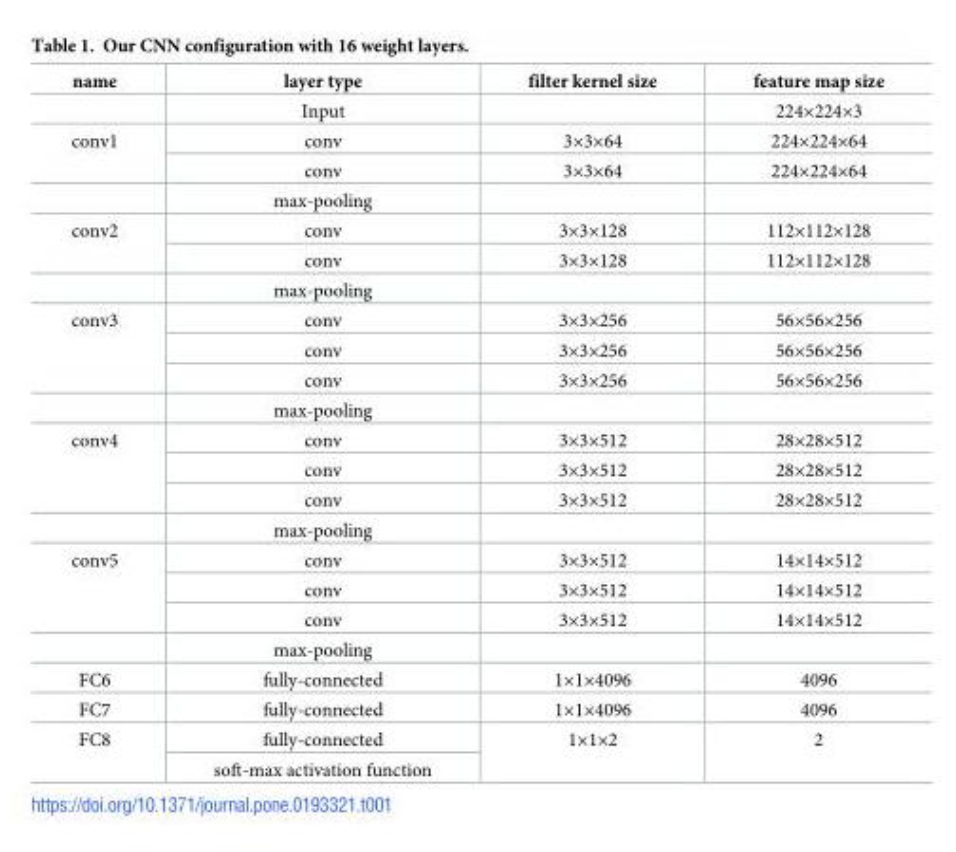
<table><thead><tr><td>name</td><td>layer type</td><td>filter kernel size</td><td>feature map size</td></tr></thead><tbody><tr><td></td><td>Input</td><td></td><td>224×224×3</td></tr><tr><td rowspan="3">conv1</td><td>conv</td><td>3×3×64</td><td>224×224×64</td></tr><tr><td>conv</td><td>3×3×64</td><td>224×224×64</td></tr><tr><td>max-pooling</td><td></td><td></td></tr><tr><td rowspan="3">conv2</td><td>conv</td><td>3×3×128</td><td>112×112×128</td></tr><tr><td>conv</td><td>3×3×128</td><td>112×112×128</td></tr><tr><td>max-pooling</td><td></td><td></td></tr><tr><td rowspan="4">conv3</td><td>conv</td><td>3×3×256</td><td>56×56×256</td></tr><tr><td>conv</td><td>3×3×256</td><td>56×56×256</td></tr><tr><td>conv</td><td>3×3×256</td><td>56×56×256</td></tr><tr><td>max-pooling</td><td></td><td></td></tr><tr><td rowspan="4">conv4</td><td>conv</td><td>3×3×512</td><td>28×28×512</td></tr><tr><td>conv</td><td>3×3×512</td><td>28×28×512</td></tr><tr><td>conv</td><td>3×3×512</td><td>28×28×512</td></tr><tr><td>max-pooling</td><td></td><td></td></tr><tr><td rowspan="4">conv5</td><td>conv</td><td>3×3×512</td><td>14×14×512</td></tr><tr><td>conv</td><td>3×3×512</td><td>14×14×512</td></tr><tr><td>conv</td><td>3×3×512</td><td>14×14×512</td></tr><tr><td>max-pooling</td><td></td><td></td></tr><tr><td>FC6</td><td>fully-connected</td><td>1×1×4096</td><td>4096</td></tr><tr><td>FC7</td><td>fully-connected</td><td>1×1×4096</td><td>4096</td></tr><tr><td rowspan="2">FC8</td><td>fully-connected</td><td rowspan="2">1×1×2</td><td rowspan="2">2</td></tr><tr><td>soft-max activation function</td></tr></tbody></table>